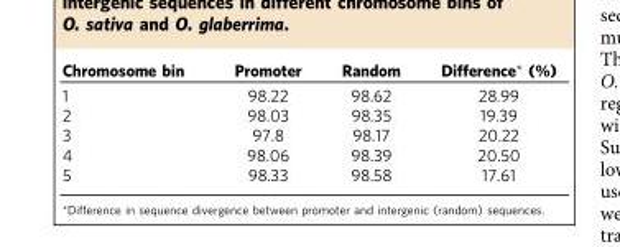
<table><thead><tr><td>Chromosome bin</td><td>Promoter</td><td>Random</td><td>Difference* (%)</td></tr></thead><tbody><tr><td>1</td><td>98.22</td><td>98.62</td><td>28.99</td></tr><tr><td>2</td><td>98.03</td><td>98.35</td><td>19.39</td></tr><tr><td>3</td><td>97.8</td><td>98.17</td><td>20.22</td></tr><tr><td>4</td><td>98.06</td><td>98.39</td><td>20.50</td></tr><tr><td>5</td><td>98.33</td><td>98.58</td><td>17.61</td></tr></tbody></table>